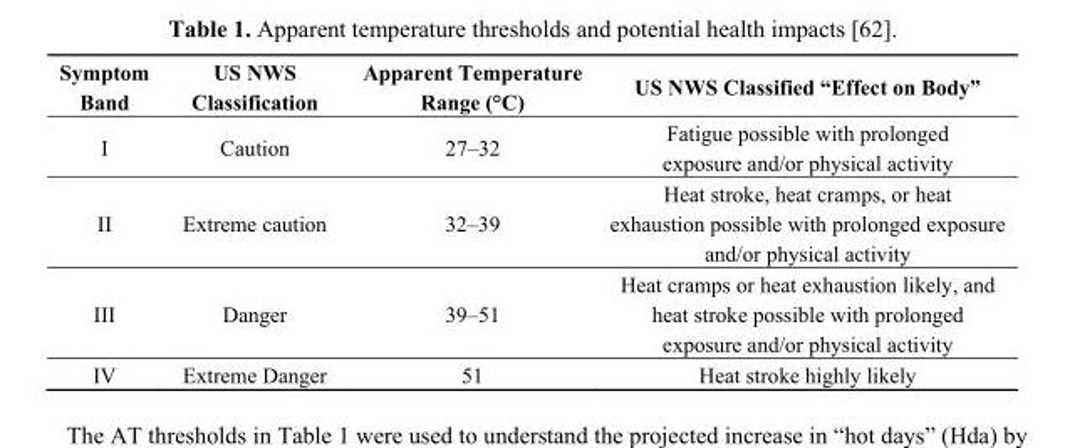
<table><thead><tr><td>Symptom Band</td><td>US NWS Classification</td><td>Apparent Temperature Range (°C)</td><td>US NWS Classified “Effect on Body”</td></tr></thead><tbody><tr><td>I</td><td>Caution</td><td>27–32</td><td>Fatigue possible with prolonged exposure and/or physical activity</td></tr><tr><td>II</td><td>Extreme caution</td><td>32–39</td><td>Heat stroke, heat cramps, or heat exhaustion possible with prolonged exposure and/or physical activity</td></tr><tr><td>III</td><td>Danger</td><td>39–51</td><td>Heat cramps or heat exhaustion likely, and heat stroke possible with prolonged exposure and/or physical activity</td></tr><tr><td>IV</td><td>Extreme Danger</td><td>51</td><td>Heat stroke highly likely</td></tr></tbody></table>